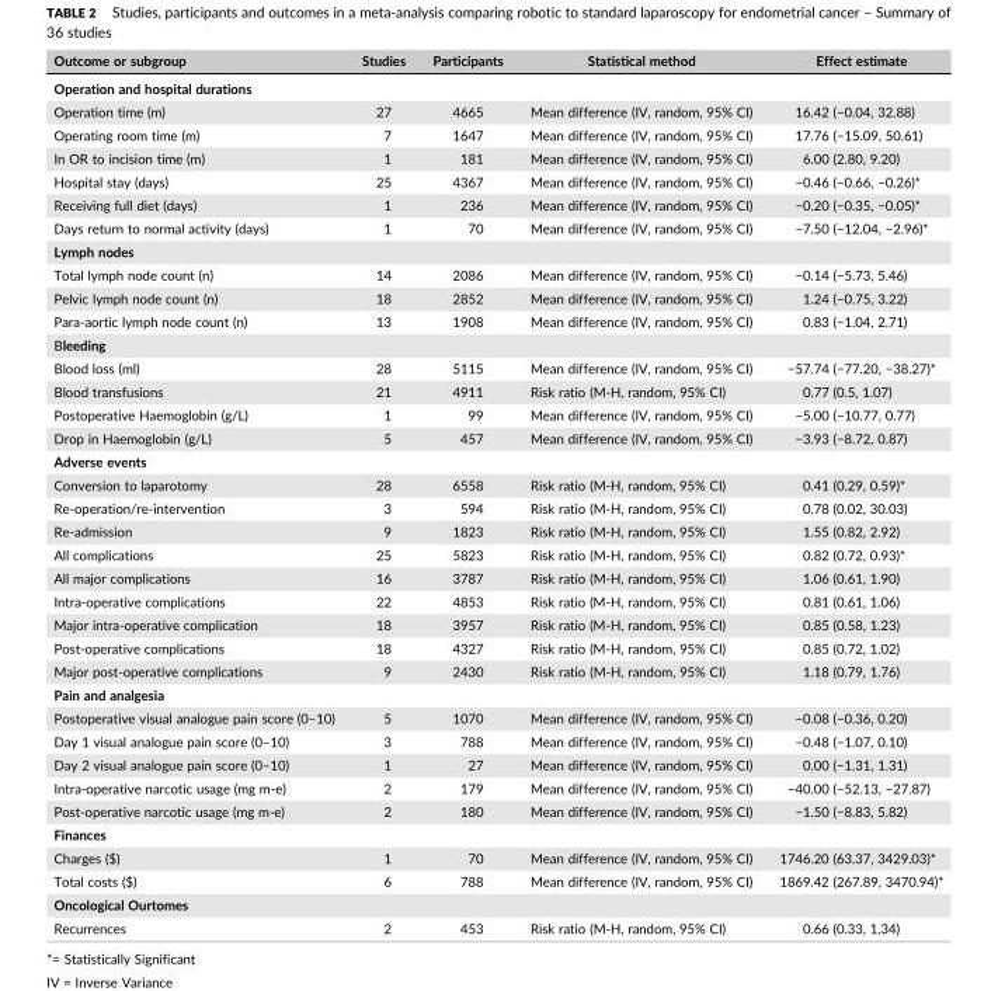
<table><thead><tr><td>Outcome or subgroup</td><td>Studies</td><td>Participants</td><td>Statistical method</td><td>Effect estimate</td></tr></thead><tbody><tr><td colspan="5">Operation and hospital durations</td></tr><tr><td>Operation time (m)</td><td>27</td><td>4665</td><td>Mean difference (IV, random, 95% CI)</td><td>16.42 (−0.04, 32.88)</td></tr><tr><td>Operating room time (m)</td><td>7</td><td>1647</td><td>Mean difference (IV, random, 95% CI)</td><td>17.76 (−15.09, 50.61)</td></tr><tr><td>In OR to incision time (m)</td><td>1</td><td>181</td><td>Mean difference (IV, random, 95% CI)</td><td>6.00 (2.80, 9.20)</td></tr><tr><td>Hospital stay (days)</td><td>25</td><td>4367</td><td>Mean difference (IV, random, 95% CI)</td><td>−0.46 (−0.66, −0.26)*</td></tr><tr><td>Receiving full diet (days)</td><td>1</td><td>236</td><td>Mean difference (IV, random, 95% CI)</td><td>−0.20 (−0.35, −0.05)*</td></tr><tr><td>Days return to normal activity (days)</td><td>1</td><td>70</td><td>Mean difference (IV, random, 95% CI)</td><td>−7.50 (−12.04, −2.96)*</td></tr><tr><td colspan="5">Lymph nodes</td></tr><tr><td>Total lymph node count (n)</td><td>14</td><td>2086</td><td>Mean difference (IV, random, 95% CI)</td><td>−0.14 (−5.73, 5.46)</td></tr><tr><td>Pelvic lymph node count (n)</td><td>18</td><td>2852</td><td>Mean difference (IV, random, 95% CI)</td><td>1.24 (−0.75, 3.22)</td></tr><tr><td>Para‐aortic lymph node count (n)</td><td>13</td><td>1908</td><td>Mean difference (IV, random, 95% CI)</td><td>0.83 (−1.04, 2.71)</td></tr><tr><td colspan="5">Bleeding</td></tr><tr><td>Blood loss (ml)</td><td>28</td><td>5115</td><td>Mean difference (IV, random, 95% CI)</td><td>−57.74 (−77.20, −38.27)*</td></tr><tr><td>Blood transfusions</td><td>21</td><td>4911</td><td>Risk ratio (M‐H, random, 95% CI)</td><td>0.77 (0.5, 1.07)</td></tr><tr><td>Postoperative Haemoglobin (g/L)</td><td>1</td><td>99</td><td>Mean difference (IV, random, 95% CI)</td><td>−5.00 (−10.77, 0.77)</td></tr><tr><td>Drop in Haemoglobin (g/L)</td><td>5</td><td>457</td><td>Mean difference (IV, random, 95% CI)</td><td>−3.93 (−8.72, 0.87)</td></tr><tr><td colspan="5">Adverse events</td></tr><tr><td>Conversion to laparotomy</td><td>28</td><td>6558</td><td>Risk ratio (M‐H, random, 95% CI)</td><td>0.41 (0.29, 0.59)*</td></tr><tr><td>Re‐operation/re‐intervention</td><td>3</td><td>594</td><td>Risk ratio (M‐H, random, 95% CI)</td><td>0.78 (0.02, 30.03)</td></tr><tr><td>Re‐admission</td><td>9</td><td>1823</td><td>Risk ratio (M‐H, random, 95% CI)</td><td>1.55 (0.82, 2.92)</td></tr><tr><td>All complications</td><td>25</td><td>5823</td><td>Risk ratio (M‐H, random, 95% CI)</td><td>0.82 (0.72, 0.93)*</td></tr><tr><td>All major complications</td><td>16</td><td>3787</td><td>Risk ratio (M‐H, random, 95% CI)</td><td>1.06 (0.61, 1.90)</td></tr><tr><td>Intra‐operative complications</td><td>22</td><td>4853</td><td>Risk ratio (M‐H, random, 95% CI)</td><td>0.81 (0.61, 1.06)</td></tr><tr><td>Major intra‐operative complication</td><td>18</td><td>3957</td><td>Risk ratio (M‐H, random, 95% CI)</td><td>0.85 (0.58, 1.23)</td></tr><tr><td>Post‐operative complications</td><td>18</td><td>4327</td><td>Risk ratio (M‐H, random, 95% CI)</td><td>0.85 (0.72, 1.02)</td></tr><tr><td>Major post‐operative complications</td><td>9</td><td>2430</td><td>Risk ratio (M‐H, random, 95% CI)</td><td>1.18 (0.79, 1.76)</td></tr><tr><td colspan="5">Pain and analgesia</td></tr><tr><td>Postoperative visual analogue pain score (0–10)</td><td>5</td><td>1070</td><td>Mean difference (IV, random, 95% CI)</td><td>−0.08 (−0.36, 0.20)</td></tr><tr><td>Day 1 visual analogue pain score (0–10)</td><td>3</td><td>788</td><td>Mean difference (IV, random, 95% CI)</td><td>−0.48 (−1.07, 0.10)</td></tr><tr><td>Day 2 visual analogue pain score (0–10)</td><td>1</td><td>27</td><td>Mean difference (IV, random, 95% CI)</td><td>0.00 (−1.31, 1.31)</td></tr><tr><td>Intra‐operative narcotic usage (mg m‐e)</td><td>2</td><td>179</td><td>Mean difference (IV, random, 95% CI)</td><td>−40.00 (−52.13, −27.87)</td></tr><tr><td>Post‐operative narcotic usage (mg m‐e)</td><td>2</td><td>180</td><td>Mean difference (IV, random, 95% CI)</td><td>−1.50 (−8.83, 5.82)</td></tr><tr><td colspan="5">Finances</td></tr><tr><td>Charges ($)</td><td>1</td><td>70</td><td>Mean difference (IV, random, 95% CI)</td><td>1746.20 (63.37, 3429.03)*</td></tr><tr><td>Total costs ($)</td><td>6</td><td>788</td><td>Mean difference (IV, random, 95% CI)</td><td>1869.42 (267.89, 3470.94)*</td></tr><tr><td colspan="5">Oncological Ourtomes</td></tr><tr><td>Recurrences</td><td>2</td><td>453</td><td>Risk ratio (M‐H, random, 95% CI)</td><td>0.66 (0.33, 1.34)</td></tr></tbody></table>